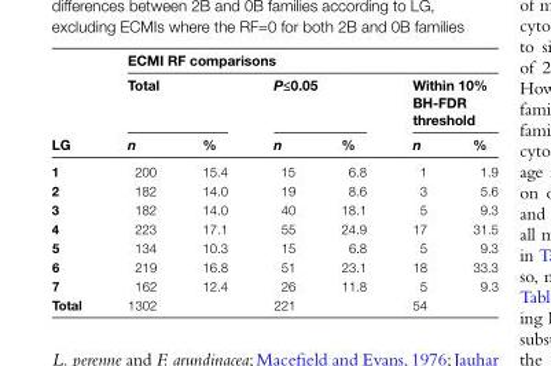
<table><thead><tr><td rowspan="3">LG</td><td colspan="6">ECMI RF comparisons</td></tr><tr><td colspan="2">Total</td><td colspan="2">P≤0.05</td><td colspan="2">Within 10% BH-FDR threshold</td></tr><tr><td>n</td><td>%</td><td>n</td><td>%</td><td>n</td><td>%</td></tr></thead><tbody><tr><td>1</td><td>200</td><td>15.4</td><td>15</td><td>6.8</td><td>1</td><td>1.9</td></tr><tr><td>2</td><td>182</td><td>14.0</td><td>19</td><td>8.6</td><td>3</td><td>5.6</td></tr><tr><td>3</td><td>182</td><td>14.0</td><td>40</td><td>18.1</td><td>5</td><td>9.3</td></tr><tr><td>4</td><td>223</td><td>17.1</td><td>55</td><td>24.9</td><td>17</td><td>31.5</td></tr><tr><td>5</td><td>134</td><td>10.3</td><td>15</td><td>6.8</td><td>5</td><td>9.3</td></tr><tr><td>6</td><td>219</td><td>16.8</td><td>51</td><td>23.1</td><td>18</td><td>33.3</td></tr><tr><td>7</td><td>162</td><td>12.4</td><td>26</td><td>11.8</td><td>5</td><td>9.3</td></tr><tr><td>Total</td><td>1302</td><td></td><td>221</td><td></td><td>54</td><td></td></tr></tbody></table>